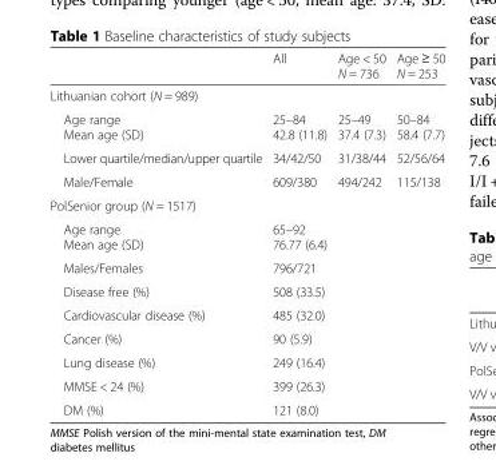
<table><thead><tr><td></td><td>All</td><td>Age &lt; 50 N = 736</td><td>Age ≥ 50 N = 253</td></tr></thead><tbody><tr><td colspan="4">Lithuanian cohort (N = 989)</td></tr><tr><td>Age range Mean age (SD)</td><td>25–84 42.8 (11.8)</td><td>25–49 37.4 (7.3)</td><td>50–84 58.4 (7.7)</td></tr><tr><td>Lower quartile/median/upper quartile</td><td>34/42/50</td><td>31/38/44</td><td>52/56/64</td></tr><tr><td>Male/Female</td><td>609/380</td><td>494/242</td><td>115/138</td></tr><tr><td colspan="4">PolSenior group (N = 1517)</td></tr><tr><td>Age range Mean age (SD)</td><td>65–92 76.77 (6.4)</td><td></td><td></td></tr><tr><td>Males/Females</td><td>796/721</td><td></td><td></td></tr><tr><td>Disease free (%)</td><td>508 (33.5)</td><td></td><td></td></tr><tr><td>Cardiovascular disease (%)</td><td>485 (32.0)</td><td></td><td></td></tr><tr><td>Cancer (%)</td><td>90 (5.9)</td><td></td><td></td></tr><tr><td>Lung disease (%)</td><td>249 (16.4)</td><td></td><td></td></tr><tr><td>MMSE &lt; 24 (%)</td><td>399 (26.3)</td><td></td><td></td></tr><tr><td>DM (%)</td><td>121 (8.0)</td><td></td><td></td></tr></tbody></table>